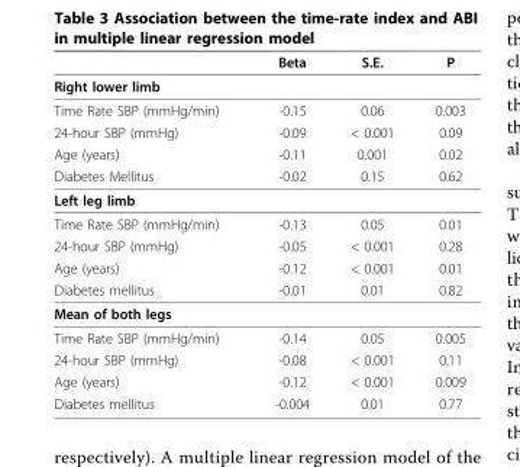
<table><thead><tr><td></td><td>Beta</td><td>S.E.</td><td>P</td></tr></thead><tbody><tr><td colspan="4">Right lower limb</td></tr><tr><td>Time Rate SBP (mmHg/min)</td><td>-0.15</td><td>0.06</td><td>0.003</td></tr><tr><td>24-hour SBP (mmHg)</td><td>-0.09</td><td>&lt; 0.001</td><td>0.09</td></tr><tr><td>Age (years)</td><td>-0.11</td><td>0.001</td><td>0.02</td></tr><tr><td>Diabetes Mellitus</td><td>-0.02</td><td>0.15</td><td>0.62</td></tr><tr><td colspan="4">Left leg limb</td></tr><tr><td>Time Rate SBP (mmHg/min)</td><td>-0.13</td><td>0.05</td><td>0.01</td></tr><tr><td>24-hour SBP (mmHg)</td><td>-0.05</td><td>&lt; 0.001</td><td>0.28</td></tr><tr><td>Age (years)</td><td>-0.12</td><td>&lt; 0.001</td><td>0.01</td></tr><tr><td>Diabetes mellitus</td><td>-0.01</td><td>0.01</td><td>0.82</td></tr><tr><td colspan="4">Mean of both legs</td></tr><tr><td>Time Rate SBP (mmHg/min)</td><td>-0.14</td><td>0.05</td><td>0.005</td></tr><tr><td>24-hour SBP (mmHg)</td><td>-0.08</td><td>&lt; 0.001</td><td>0.11</td></tr><tr><td>Age (years)</td><td>-0.12</td><td>&lt; 0.001</td><td>0.009</td></tr><tr><td>Diabetes mellitus</td><td>-0.004</td><td>0.01</td><td>0.77</td></tr></tbody></table>